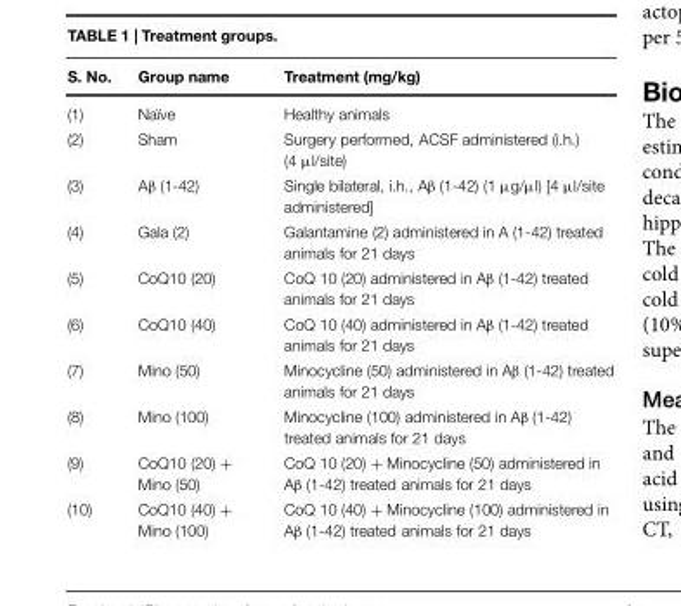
<table><thead><tr><td>S. No.</td><td>Group name</td><td>Treatment (mg/kg)</td></tr></thead><tbody><tr><td>(1)</td><td>Naïve</td><td>Healthy animals</td></tr><tr><td>(2)</td><td>Sham</td><td>Surgery performed, ACSF administered (i.h.) (4 μl/site)</td></tr><tr><td>(3)</td><td>Aβ (1-42)</td><td>Single bilateral, i.h., Aβ (1-42) (1 μg/μl) [4 μl/site administered]</td></tr><tr><td>(4)</td><td>Gala (2)</td><td>Galantamine (2) administered in A (1-42) treated animals for 21 days</td></tr><tr><td>(5)</td><td>CoQ10 (20)</td><td>CoQ 10 (20) administered in Aβ (1-42) treated animals for 21 days</td></tr><tr><td>(6)</td><td>CoQ10 (40)</td><td>CoQ 10 (40) administered in Aβ (1-42) treated animals for 21 days</td></tr><tr><td>(7)</td><td>Mino (50)</td><td>Minocycline (50) administered in Aβ (1-42) treated animals for 21 days</td></tr><tr><td>(8)</td><td>Mino (100)</td><td>Minocycline (100) administered in Aβ (1-42) treated animals for 21 days</td></tr><tr><td>(9)</td><td>CoQ10 (20) + Mino (50)</td><td>CoQ 10 (20) + Minocycline (50) administered in Aβ (1-42) treated animals for 21 days</td></tr><tr><td>(10)</td><td>CoQ10 (40) + Mino (100)</td><td>CoQ 10 (40) + Minocycline (100) administered in Aβ (1-42) treated animals for 21 days</td></tr></tbody></table>